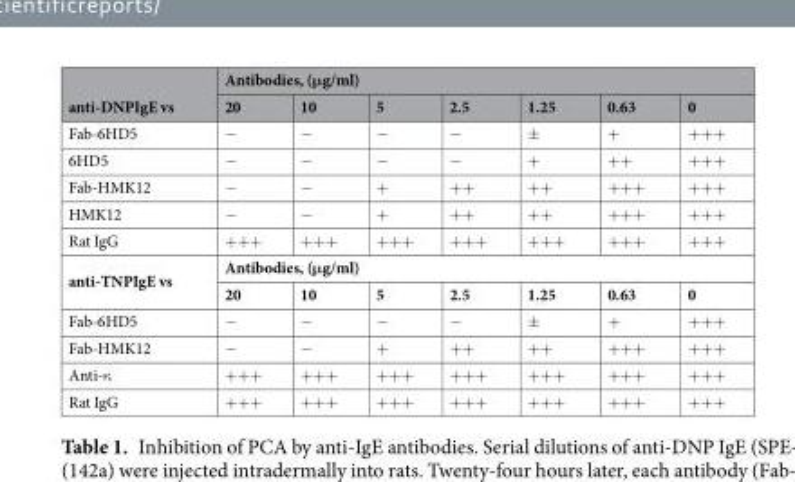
<table><thead><tr><td rowspan="2">anti-DNPIgE vs</td><td colspan="7">Antibodies, (μg/ml)</td></tr><tr><td>20</td><td>10</td><td>5</td><td>2.5</td><td>1.25</td><td>0.63</td><td>0</td></tr></thead><tbody><tr><td>Fab-6HD5</td><td>−</td><td>−</td><td>−</td><td>−</td><td>±</td><td>+</td><td>+++</td></tr><tr><td>6HD5</td><td>−</td><td>−</td><td>−</td><td>−</td><td>+</td><td>++</td><td>+++</td></tr><tr><td>Fab-HMK12</td><td>−</td><td>−</td><td>+</td><td>++</td><td>++</td><td>+++</td><td>+++</td></tr><tr><td>HMK12</td><td>−</td><td>−</td><td>+</td><td>++</td><td>++</td><td>+++</td><td>+++</td></tr><tr><td>Rat IgG</td><td>+++</td><td>+++</td><td>+++</td><td>+++</td><td>+++</td><td>+++</td><td>+++</td></tr><tr><td rowspan="2">anti-TNPIgE vs</td><td colspan="7">Antibodies, (μg/ml)</td></tr><tr><td>20</td><td>10</td><td>5</td><td>2.5</td><td>1.25</td><td>0.63</td><td>0</td></tr><tr><td>Fab-6HD5</td><td>−</td><td>−</td><td>−</td><td>−</td><td>±</td><td>+</td><td>+++</td></tr><tr><td>Fab-HMK12</td><td>−</td><td>−</td><td>+</td><td>++</td><td>++</td><td>+++</td><td>+++</td></tr><tr><td>Anti-κ</td><td>+++</td><td>+++</td><td>+++</td><td>+++</td><td>+++</td><td>+++</td><td>+++</td></tr><tr><td>Rat IgG</td><td>+++</td><td>+++</td><td>+++</td><td>+++</td><td>+++</td><td>+++</td><td>+++</td></tr></tbody></table>